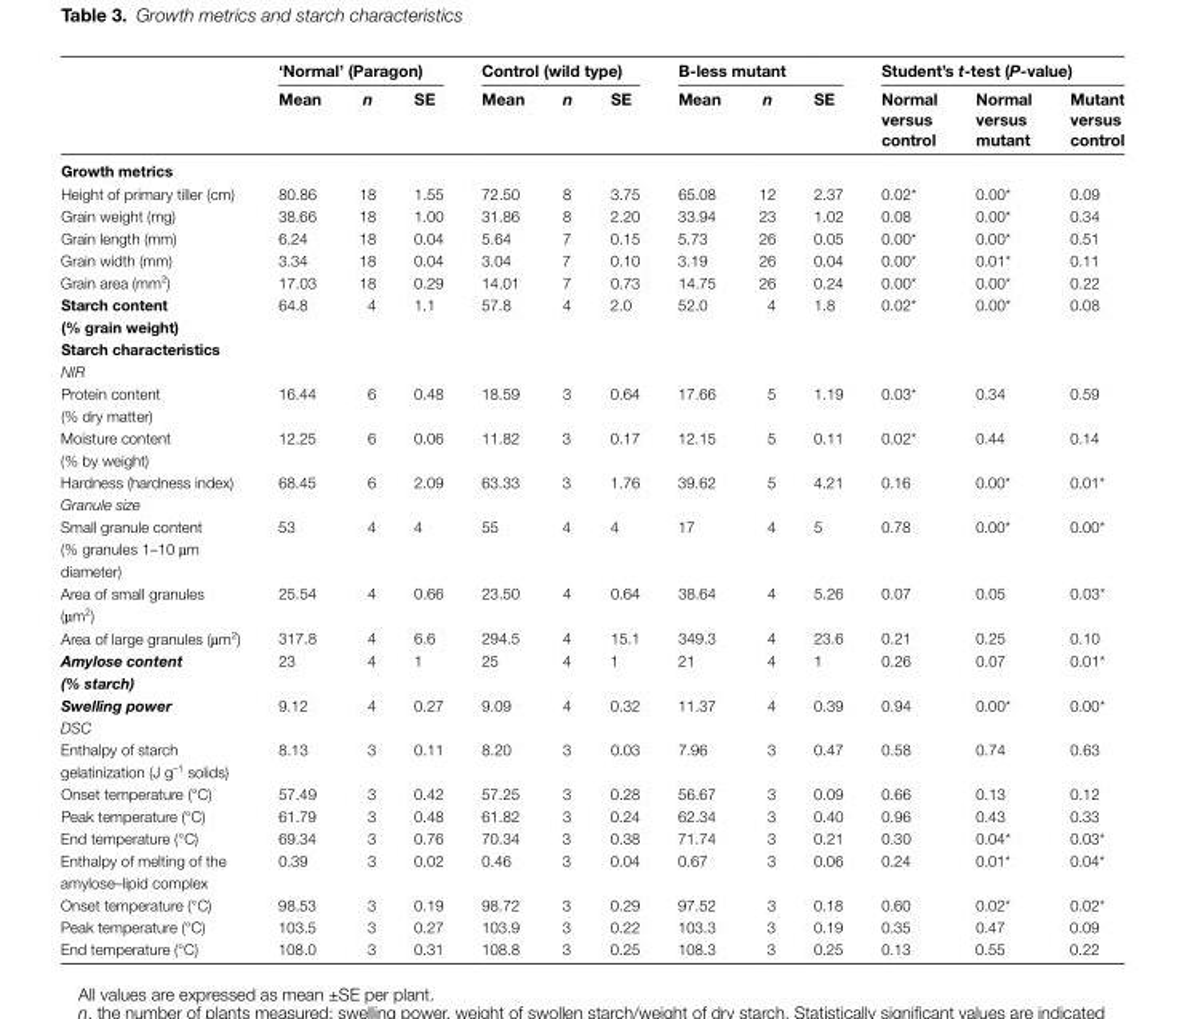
<table><thead><tr><td rowspan="2"></td><td colspan="3">‘Normal’ (Paragon)</td><td colspan="3">Control (wild type)</td><td colspan="3">B-less mutant</td><td colspan="3">Student’s t-test (P-value)</td></tr><tr><td>Mean</td><td>n</td><td>SE</td><td>Mean</td><td>n</td><td>SE</td><td>Mean</td><td>n</td><td>SE</td><td>Normal versus control</td><td>Normal versus mutant</td><td>Mutant versus control</td></tr></thead><tbody><tr><td colspan="13">Growth metrics</td></tr><tr><td>Height of primary tiller (cm)</td><td>80.86</td><td>18</td><td>1.55</td><td>72.50</td><td>8</td><td>3.75</td><td>65.08</td><td>12</td><td>2.37</td><td>0.02*</td><td>0.00*</td><td>0.09</td></tr><tr><td>Grain weight (mg)</td><td>38.66</td><td>18</td><td>1.00</td><td>31.86</td><td>8</td><td>2.20</td><td>33.94</td><td>23</td><td>1.02</td><td>0.08</td><td>0.00*</td><td>0.34</td></tr><tr><td>Grain length (mm)</td><td>6.24</td><td>18</td><td>0.04</td><td>5.64</td><td>7</td><td>0.15</td><td>5.73</td><td>26</td><td>0.05</td><td>0.00*</td><td>0.00*</td><td>0.51</td></tr><tr><td>Grain width (mm)</td><td>3.34</td><td>18</td><td>0.04</td><td>3.04</td><td>7</td><td>0.10</td><td>3.19</td><td>26</td><td>0.04</td><td>0.00*</td><td>0.01*</td><td>0.11</td></tr><tr><td>Grain area (mm<sup>2</sup>)</td><td>17.03</td><td>18</td><td>0.29</td><td>14.01</td><td>7</td><td>0.73</td><td>14.75</td><td>26</td><td>0.24</td><td>0.00*</td><td>0.00*</td><td>0.22</td></tr><tr><td>Starch content (% grain weight)</td><td>64.8</td><td>4</td><td>1.1</td><td>57.8</td><td>4</td><td>2.0</td><td>52.0</td><td>4</td><td>1.8</td><td>0.02*</td><td>0.00*</td><td>0.08</td></tr><tr><td colspan="13">Starch characteristics</td></tr><tr><td colspan="13">NIR</td></tr><tr><td>Protein content (% dry matter)</td><td>16.44</td><td>6</td><td>0.48</td><td>18.59</td><td>3</td><td>0.64</td><td>17.66</td><td>5</td><td>1.19</td><td>0.03*</td><td>0.34</td><td>0.59</td></tr><tr><td>Moisture content (% by weight)</td><td>12.25</td><td>6</td><td>0.06</td><td>11.82</td><td>3</td><td>0.17</td><td>12.15</td><td>5</td><td>0.11</td><td>0.02*</td><td>0.44</td><td>0.14</td></tr><tr><td>Hardness (hardness index)</td><td>68.45</td><td>6</td><td>2.09</td><td>63.33</td><td>3</td><td>1.76</td><td>39.62</td><td>5</td><td>4.21</td><td>0.16</td><td>0.00*</td><td>0.01*</td></tr><tr><td colspan="13">Granule size</td></tr><tr><td>Small granule content (% granules 1–10 µm diameter)</td><td>53</td><td>4</td><td>4</td><td>55</td><td>4</td><td>4</td><td>17</td><td>4</td><td>5</td><td>0.78</td><td>0.00*</td><td>0.00*</td></tr><tr><td>Area of small granules (µm<sup>2</sup>)</td><td>25.54</td><td>4</td><td>0.66</td><td>23.50</td><td>4</td><td>0.64</td><td>38.64</td><td>4</td><td>5.26</td><td>0.07</td><td>0.05</td><td>0.03*</td></tr><tr><td>Area of large granules (µm<sup>2</sup>)</td><td>317.8</td><td>4</td><td>6.6</td><td>294.5</td><td>4</td><td>15.1</td><td>349.3</td><td>4</td><td>23.6</td><td>0.21</td><td>0.25</td><td>0.10</td></tr><tr><td>Amylose content (% starch)</td><td>23</td><td>4</td><td>1</td><td>25</td><td>4</td><td>1</td><td>21</td><td>4</td><td>1</td><td>0.26</td><td>0.07</td><td>0.01*</td></tr><tr><td>Swelling power</td><td>9.12</td><td>4</td><td>0.27</td><td>9.09</td><td>4</td><td>0.32</td><td>11.37</td><td>4</td><td>0.39</td><td>0.94</td><td>0.00*</td><td>0.00*</td></tr><tr><td colspan="13">DSC</td></tr><tr><td>Enthalpy of starch gelatinization (J g<sup>–1</sup> solids)</td><td>8.13</td><td>3</td><td>0.11</td><td>8.20</td><td>3</td><td>0.03</td><td>7.96</td><td>3</td><td>0.47</td><td>0.58</td><td>0.74</td><td>0.63</td></tr><tr><td>Onset temperature (°C)</td><td>57.49</td><td>3</td><td>0.42</td><td>57.25</td><td>3</td><td>0.28</td><td>56.67</td><td>3</td><td>0.09</td><td>0.66</td><td>0.13</td><td>0.12</td></tr><tr><td>Peak temperature (°C)</td><td>61.79</td><td>3</td><td>0.48</td><td>61.82</td><td>3</td><td>0.24</td><td>62.34</td><td>3</td><td>0.40</td><td>0.96</td><td>0.43</td><td>0.33</td></tr><tr><td>End temperature (°C)</td><td>69.34</td><td>3</td><td>0.76</td><td>70.34</td><td>3</td><td>0.38</td><td>71.74</td><td>3</td><td>0.21</td><td>0.30</td><td>0.04*</td><td>0.03*</td></tr><tr><td>Enthalpy of melting of the amylose–lipid complex</td><td>0.39</td><td>3</td><td>0.02</td><td>0.46</td><td>3</td><td>0.04</td><td>0.67</td><td>3</td><td>0.06</td><td>0.24</td><td>0.01*</td><td>0.04*</td></tr><tr><td>Onset temperature (°C)</td><td>98.53</td><td>3</td><td>0.19</td><td>98.72</td><td>3</td><td>0.29</td><td>97.52</td><td>3</td><td>0.18</td><td>0.60</td><td>0.02*</td><td>0.02*</td></tr><tr><td>Peak temperature (°C)</td><td>103.5</td><td>3</td><td>0.27</td><td>103.9</td><td>3</td><td>0.22</td><td>103.3</td><td>3</td><td>0.19</td><td>0.35</td><td>0.47</td><td>0.09</td></tr><tr><td>End temperature (°C)</td><td>108.0</td><td>3</td><td>0.31</td><td>108.8</td><td>3</td><td>0.25</td><td>108.3</td><td>3</td><td>0.25</td><td>0.13</td><td>0.55</td><td>0.22</td></tr></tbody></table>